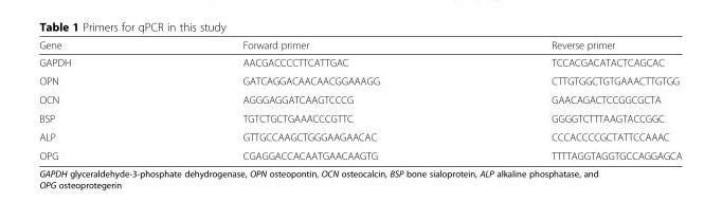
<table><thead><tr><td>Gene</td><td>Forward primer</td><td>Reverse primer</td></tr></thead><tbody><tr><td>GAPDH</td><td>AACGACCCCTTCATTGAC</td><td>TCCACGACATACTCAGCAC</td></tr><tr><td>OPN</td><td>GATCAGGACAACAACGGAAAGG</td><td>CTTGTGGCTGTGAAACTTGTGG</td></tr><tr><td>OCN</td><td>AGGGAGGATCAAGTCCCG</td><td>GAACAGACTCCGGCGCTA</td></tr><tr><td>BSP</td><td>TGTCTGCTGAAACCCGTTC</td><td>GGGGTCTTTAAGTACCGGC</td></tr><tr><td>ALP</td><td>GTTGCCAAGCTGGGAAGAACAC</td><td>CCCACCCCGCTATTCCAAAC</td></tr><tr><td>OPG</td><td>CGAGGACCACAATGAACAAGTG</td><td>TTTTAGGTAGGTGCCAGGAGCA</td></tr></tbody></table>